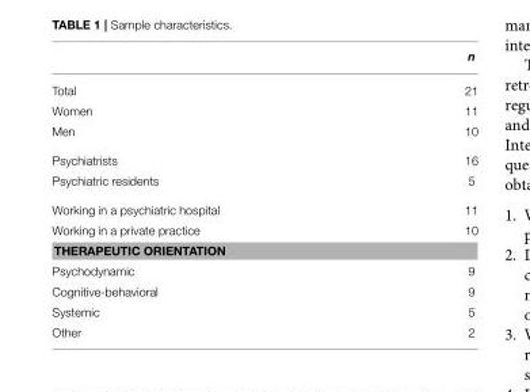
<table><thead><tr><td></td><td>n</td></tr></thead><tbody><tr><td>Total</td><td>21</td></tr><tr><td>Women</td><td>11</td></tr><tr><td>Men</td><td>10</td></tr><tr><td>Psychiatrists</td><td>16</td></tr><tr><td>Psychiatric residents</td><td>5</td></tr><tr><td>Working in a psychiatric hospital</td><td>11</td></tr><tr><td>Working in a private practice</td><td>10</td></tr><tr><td colspan="2">THERAPEUTIC ORIENTATION</td></tr><tr><td>Psychodynamic</td><td>9</td></tr><tr><td>Cognitive-behavioral</td><td>9</td></tr><tr><td>Systemic</td><td>5</td></tr><tr><td>Other</td><td>2</td></tr></tbody></table>